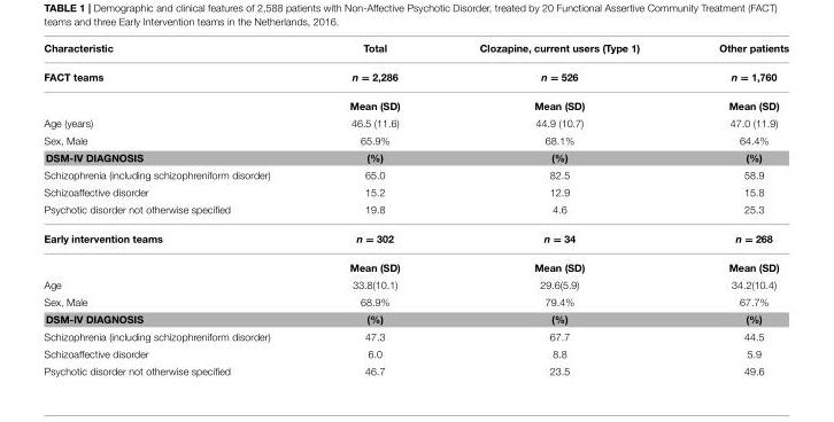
<table><thead><tr><td>Characteristic</td><td>Total</td><td>Clozapine, current users (Type 1)</td><td>Other patients</td></tr></thead><tbody><tr><td rowspan="2">FACT teams</td><td>n = 2,286</td><td>n = 526</td><td>n = 1,760</td></tr><tr><td>Mean (SD)</td><td>Mean (SD)</td><td>Mean (SD)</td></tr><tr><td>Age (years)</td><td>46.5 (11.6)</td><td>44.9 (10.7)</td><td>47.0 (11.9)</td></tr><tr><td>Sex, Male</td><td>65.9%</td><td>68.1%</td><td>64.4%</td></tr><tr><td>DSM-IV DIAGNOSIS</td><td>(%)</td><td>(%)</td><td>(%)</td></tr><tr><td>Schizophrenia (including schizophreniform disorder)</td><td>65.0</td><td>82.5</td><td>58.9</td></tr><tr><td>Schizoaffective disorder</td><td>15.2</td><td>12.9</td><td>15.8</td></tr><tr><td>Psychotic disorder not otherwise specified</td><td>19.8</td><td>4.6</td><td>25.3</td></tr><tr><td rowspan="2">Early intervention teams</td><td>n = 302</td><td>n = 34</td><td>n = 268</td></tr><tr><td>Mean (SD)</td><td>Mean (SD)</td><td>Mean (SD)</td></tr><tr><td>Age</td><td>33.8(10.1)</td><td>29.6(5.9)</td><td>34.2(10.4)</td></tr><tr><td>Sex, Male</td><td>68.9%</td><td>79.4%</td><td>67.7%</td></tr><tr><td>DSM-IV DIAGNOSIS</td><td>(%)</td><td>(%)</td><td>(%)</td></tr><tr><td>Schizophrenia (including schizophreniform disorder)</td><td>47.3</td><td>67.7</td><td>44.5</td></tr><tr><td>Schizoaffective disorder</td><td>6.0</td><td>8.8</td><td>5.9</td></tr><tr><td>Psychotic disorder not otherwise specified</td><td>46.7</td><td>23.5</td><td>49.6</td></tr></tbody></table>